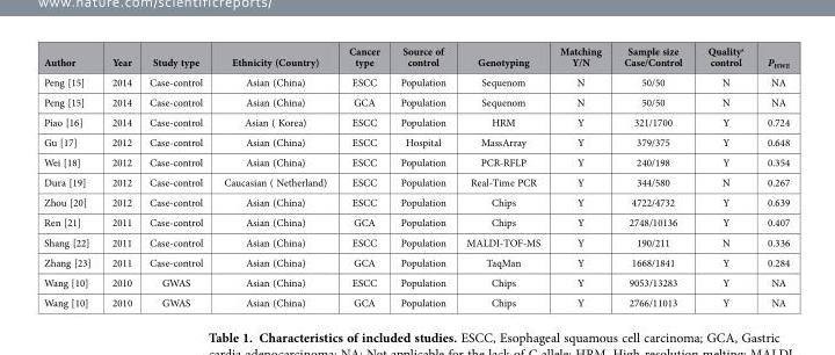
<table><thead><tr><td>Author</td><td>Year</td><td>Study type</td><td>Ethnicity (Country)</td><td>Cancer type</td><td>Source of control</td><td>Genotyping</td><td>Matching Y/N</td><td>Sample size Case/Control</td><td>Quality<sup>a</sup> control</td><td>P<sub>HWE</sub></td></tr></thead><tbody><tr><td>Peng [15]</td><td>2014</td><td>Case-control</td><td>Asian (China)</td><td>ESCC</td><td>Population</td><td>Sequenom</td><td>N</td><td>50/50</td><td>N</td><td>NA</td></tr><tr><td>Peng [15]</td><td>2014</td><td>Case-control</td><td>Asian (China)</td><td>GCA</td><td>Population</td><td>Sequenom</td><td>N</td><td>50/50</td><td>N</td><td>NA</td></tr><tr><td>Piao [16]</td><td>2014</td><td>Case-control</td><td>Asian ( Korea)</td><td>ESCC</td><td>Population</td><td>HRM</td><td>Y</td><td>321/1700</td><td>Y</td><td>0.724</td></tr><tr><td>Gu [17]</td><td>2012</td><td>Case-control</td><td>Asian (China)</td><td>ESCC</td><td>Hospital</td><td>MassArray</td><td>Y</td><td>379/375</td><td>Y</td><td>0.648</td></tr><tr><td>Wei [18]</td><td>2012</td><td>Case-control</td><td>Asian (China)</td><td>ESCC</td><td>Population</td><td>PCR-RFLP</td><td>Y</td><td>240/198</td><td>Y</td><td>0.354</td></tr><tr><td>Dura [19]</td><td>2012</td><td>Case-control</td><td>Caucasian ( Netherland)</td><td>ESCC</td><td>Population</td><td>Real-Time PCR</td><td>Y</td><td>344/580</td><td>N</td><td>0.267</td></tr><tr><td>Zhou [20]</td><td>2012</td><td>Case-control</td><td>Asian (China)</td><td>ESCC</td><td>Population</td><td>Chips</td><td>Y</td><td>4722/4732</td><td>Y</td><td>0.639</td></tr><tr><td>Ren [21]</td><td>2011</td><td>Case-control</td><td>Asian (China)</td><td>GCA</td><td>Population</td><td>Chips</td><td>Y</td><td>2748/10136</td><td>Y</td><td>0.407</td></tr><tr><td>Shang [22]</td><td>2011</td><td>Case-control</td><td>Asian (China)</td><td>ESCC</td><td>Population</td><td>MALDI-TOF-MS</td><td>Y</td><td>190/211</td><td>N</td><td>0.336</td></tr><tr><td>Zhang [23]</td><td>2011</td><td>Case-control</td><td>Asian (China)</td><td>GCA</td><td>Population</td><td>TaqMan</td><td>Y</td><td>1668/1841</td><td>Y</td><td>0.284</td></tr><tr><td>Wang [10]</td><td>2010</td><td>GWAS</td><td>Asian (China)</td><td>ESCC</td><td>Population</td><td>Chips</td><td>Y</td><td>9053/13283</td><td>Y</td><td>NA</td></tr><tr><td>Wang [10]</td><td>2010</td><td>GWAS</td><td>Asian (China)</td><td>GCA</td><td>Population</td><td>Chips</td><td>Y</td><td>2766/11013</td><td>Y</td><td>NA</td></tr></tbody></table>